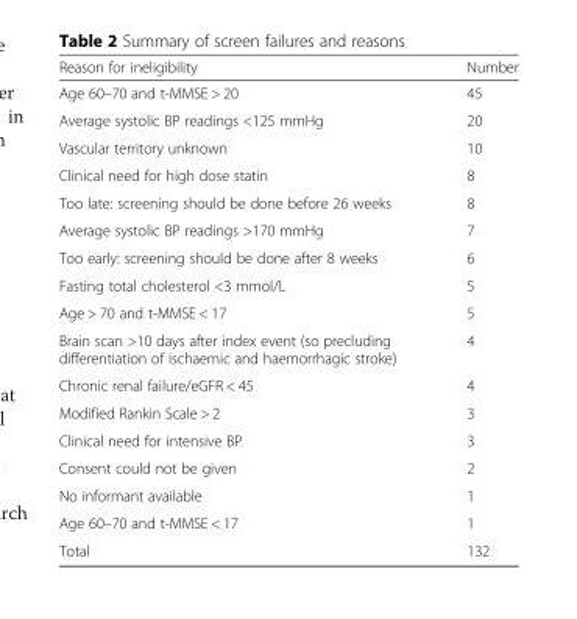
<table><thead><tr><td>Reason for ineligibility</td><td>Number</td></tr></thead><tbody><tr><td>Age 60–70 and t-MMSE &gt; 20</td><td>45</td></tr><tr><td>Average systolic BP readings &lt;125 mmHg</td><td>20</td></tr><tr><td>Vascular territory unknown</td><td>10</td></tr><tr><td>Clinical need for high dose statin</td><td>8</td></tr><tr><td>Too late: screening should be done before 26 weeks</td><td>8</td></tr><tr><td>Average systolic BP readings &gt;170 mmHg</td><td>7</td></tr><tr><td>Too early: screening should be done after 8 weeks</td><td>6</td></tr><tr><td>Fasting total cholesterol &lt;3 mmol/L</td><td>5</td></tr><tr><td>Age &gt; 70 and t-MMSE &lt; 17</td><td>5</td></tr><tr><td>Brain scan &gt;10 days after index event (so precluding differentiation of ischaemic and haemorrhagic stroke)</td><td>4</td></tr><tr><td>Chronic renal failure/eGFR &lt; 45</td><td>4</td></tr><tr><td>Modified Rankin Scale &gt; 2</td><td>3</td></tr><tr><td>Clinical need for intensive BP</td><td>3</td></tr><tr><td>Consent could not be given</td><td>2</td></tr><tr><td>No informant available</td><td>1</td></tr><tr><td>Age 60–70 and t-MMSE &lt; 17</td><td>1</td></tr><tr><td>Total</td><td>132</td></tr></tbody></table>